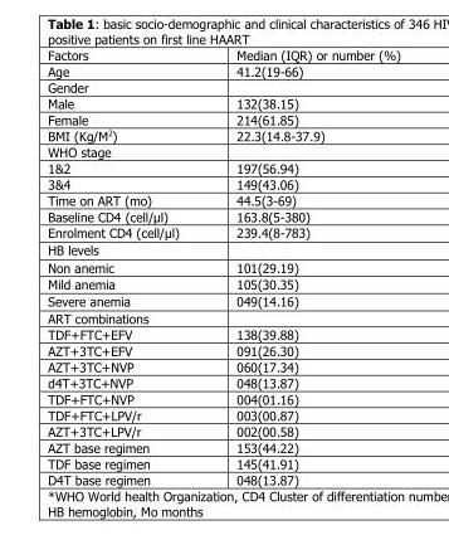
<table><thead><tr><td>Factors</td><td>Median (IQR) or number (%)</td></tr></thead><tbody><tr><td>Age</td><td>41.2(19-66)</td></tr><tr><td colspan="2">Gender</td></tr><tr><td>Male</td><td>132(38.15)</td></tr><tr><td>Female</td><td>214(61.85)</td></tr><tr><td>BMI (Kg/M<sup>2</sup>)</td><td>22.3(14.8-37.9)</td></tr><tr><td colspan="2">WHO stage</td></tr><tr><td>1&amp;2</td><td>197(56.94)</td></tr><tr><td>3&amp;4</td><td>149(43.06)</td></tr><tr><td>Time on ART (mo)</td><td>44.5(3-69)</td></tr><tr><td>Baseline CD4 (cell/µl)</td><td>163.8(5-380)</td></tr><tr><td>Enrolment CD4 (cell/µl)</td><td>239.4(8-783)</td></tr><tr><td colspan="2">HB levels</td></tr><tr><td>Non anemic</td><td>101(29.19)</td></tr><tr><td>Mild anemia</td><td>105(30.35)</td></tr><tr><td>Severe anemia</td><td>049(14.16)</td></tr><tr><td colspan="2">ART combinations</td></tr><tr><td>TDF+FTC+EFV</td><td>138(39.88)</td></tr><tr><td>AZT+3TC+EFV</td><td>091(26.30)</td></tr><tr><td>AZT+3TC+NVP</td><td>060(17.34)</td></tr><tr><td>d4T+3TC+NVP</td><td>048(13.87)</td></tr><tr><td>TDF+FTC+NVP</td><td>004(01.16)</td></tr><tr><td>TDF+FTC+LPV/r</td><td>003(00.87)</td></tr><tr><td>AZT+3TC+LPV/r</td><td>002(00.58)</td></tr><tr><td>AZT base regimen</td><td>153(44.22)</td></tr><tr><td>TDF base regimen</td><td>145(41.91)</td></tr><tr><td>D4T base regimen</td><td>048(13.87)</td></tr></tbody></table>